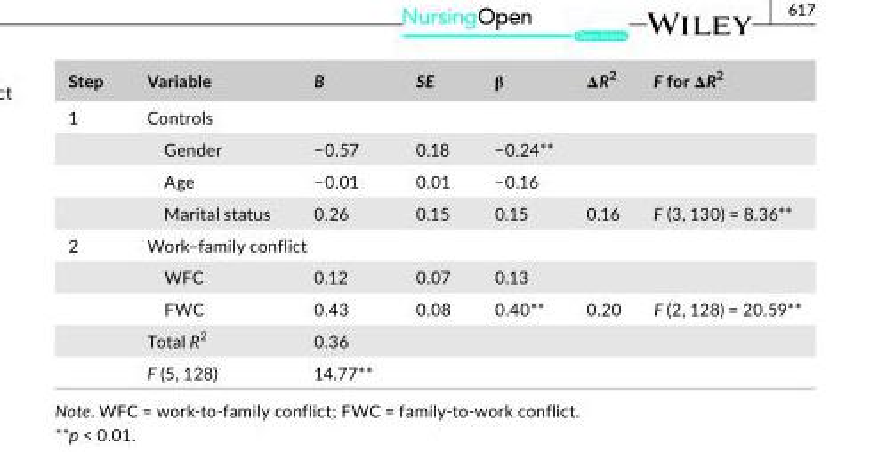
<table><thead><tr><td>Step</td><td>Variable</td><td>B</td><td>SE</td><td>β</td><td>ΔR<sup>2</sup></td><td>F for ΔR<sup>2</sup></td></tr></thead><tbody><tr><td rowspan="4">1</td><td colspan="6">Controls</td></tr><tr><td>Gender</td><td>−0.57</td><td>0.18</td><td>−0.24**</td><td></td><td></td></tr><tr><td>Age</td><td>−0.01</td><td>0.01</td><td>−0.16</td><td></td><td></td></tr><tr><td>Marital status</td><td>0.26</td><td>0.15</td><td>0.15</td><td>0.16</td><td>F (3, 130) = 8.36**</td></tr><tr><td rowspan="5">2</td><td colspan="6">Work–family conflict</td></tr><tr><td>WFC</td><td>0.12</td><td>0.07</td><td>0.13</td><td></td><td></td></tr><tr><td>FWC</td><td>0.43</td><td>0.08</td><td>0.40**</td><td>0.20</td><td>F (2, 128) = 20.59**</td></tr><tr><td>Total R<sup>2</sup></td><td>0.36</td><td></td><td></td><td></td><td></td></tr><tr><td>F (5, 128)</td><td>14.77**</td><td></td><td></td><td></td><td></td></tr></tbody></table>